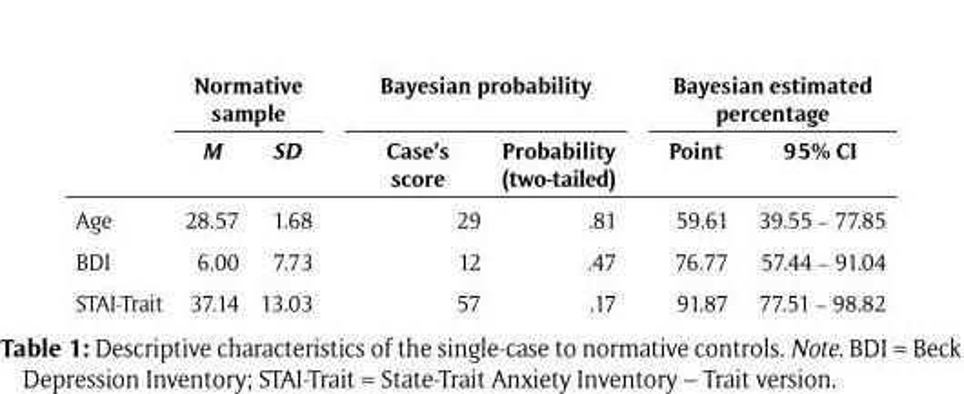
<table><thead><tr><td rowspan="2"></td><td colspan="2">Normative sample</td><td colspan="2">Bayesian probability</td><td colspan="2">Bayesian estimated percentage</td></tr><tr><td>M</td><td>SD</td><td>Case’s score</td><td>Probability (two-tailed)</td><td>Point</td><td>95% CI</td></tr></thead><tbody><tr><td>Age</td><td>28.57</td><td>1.68</td><td>29</td><td>.81</td><td>59.61</td><td>39.55 − 77.85</td></tr><tr><td>BDI</td><td>6.00</td><td>7.73</td><td>12</td><td>.47</td><td>76.77</td><td>57.44 − 91.04</td></tr><tr><td>STAI-Trait</td><td>37.14</td><td>13.03</td><td>57</td><td>.17</td><td>91.87</td><td>77.51 − 98.82</td></tr></tbody></table>